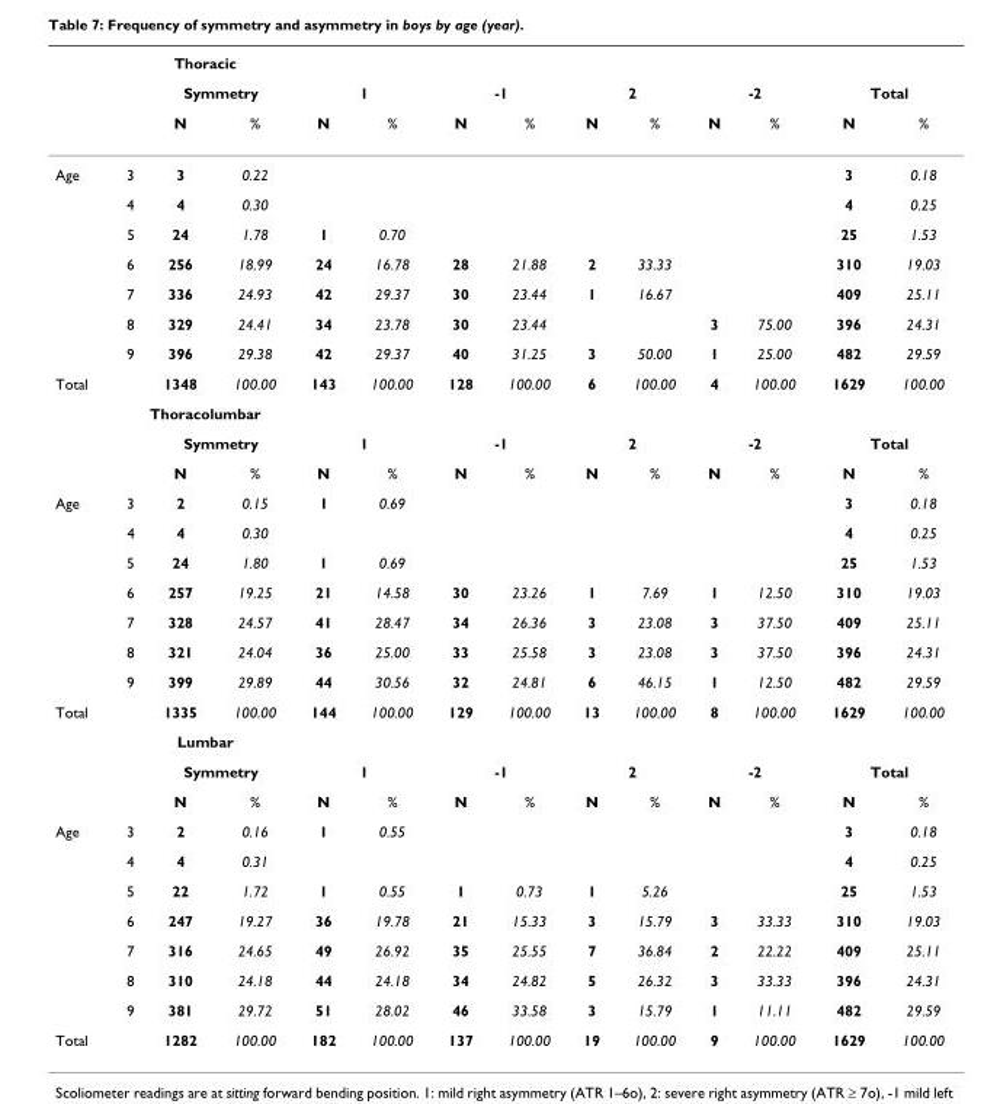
<table><thead><tr><td rowspan="3"></td><td colspan="3">Thoracic</td><td></td><td></td><td></td><td></td><td></td><td></td><td></td><td></td><td></td><td></td></tr><tr><td rowspan="2"></td><td colspan="2">Symmetry</td><td colspan="2">1</td><td colspan="2">-1</td><td colspan="2">2</td><td colspan="2">-2</td><td colspan="2">Total</td></tr><tr><td>N</td><td>%</td><td>N</td><td>%</td><td>N</td><td>%</td><td>N</td><td>%</td><td>N</td><td>%</td><td>N</td><td>%</td></tr></thead><tbody><tr><td rowspan="7">Age</td><td>3</td><td>3</td><td>0.22</td><td></td><td></td><td></td><td></td><td></td><td></td><td></td><td></td><td>3</td><td>0.18</td></tr><tr><td>4</td><td>4</td><td>0.30</td><td></td><td></td><td></td><td></td><td></td><td></td><td></td><td></td><td>4</td><td>0.25</td></tr><tr><td>5</td><td>24</td><td>1.78</td><td>1</td><td>0.70</td><td></td><td></td><td></td><td></td><td></td><td></td><td>25</td><td>1.53</td></tr><tr><td>6</td><td>256</td><td>18.99</td><td>24</td><td>16.78</td><td>28</td><td>21.88</td><td>2</td><td>33.33</td><td></td><td></td><td>310</td><td>19.03</td></tr><tr><td>7</td><td>336</td><td>24.93</td><td>42</td><td>29.37</td><td>30</td><td>23.44</td><td>1</td><td>16.67</td><td></td><td></td><td>409</td><td>25.11</td></tr><tr><td>8</td><td>329</td><td>24.41</td><td>34</td><td>23.78</td><td>30</td><td>23.44</td><td></td><td></td><td>3</td><td>75.00</td><td>396</td><td>24.31</td></tr><tr><td>9</td><td>396</td><td>29.38</td><td>42</td><td>29.37</td><td>40</td><td>31.25</td><td>3</td><td>50.00</td><td>1</td><td>25.00</td><td>482</td><td>29.59</td></tr><tr><td rowspan="4">Total</td><td></td><td>1348</td><td>100.00</td><td>143</td><td>100.00</td><td>128</td><td>100.00</td><td>6</td><td>100.00</td><td>4</td><td>100.00</td><td>1629</td><td>100.00</td></tr><tr><td colspan="3">Thoracolumbar</td><td></td><td></td><td></td><td></td><td></td><td></td><td></td><td></td><td></td><td></td></tr><tr><td></td><td colspan="2">Symmetry</td><td colspan="2">1</td><td colspan="2">-1</td><td colspan="2">2</td><td colspan="2">-2</td><td colspan="2">Total</td></tr><tr><td></td><td>N</td><td>%</td><td>N</td><td>%</td><td>N</td><td>%</td><td>N</td><td>%</td><td>N</td><td>%</td><td>N</td><td>%</td></tr><tr><td rowspan="7">Age</td><td>3</td><td>2</td><td>0.15</td><td>1</td><td>0.69</td><td></td><td></td><td></td><td></td><td></td><td></td><td>3</td><td>0.18</td></tr><tr><td>4</td><td>4</td><td>0.30</td><td></td><td></td><td></td><td></td><td></td><td></td><td></td><td></td><td>4</td><td>0.25</td></tr><tr><td>5</td><td>24</td><td>1.80</td><td>1</td><td>0.69</td><td></td><td></td><td></td><td></td><td></td><td></td><td>25</td><td>1.53</td></tr><tr><td>6</td><td>257</td><td>19.25</td><td>21</td><td>14.58</td><td>30</td><td>23.26</td><td>1</td><td>7.69</td><td>1</td><td>12.50</td><td>310</td><td>19.03</td></tr><tr><td>7</td><td>328</td><td>24.57</td><td>41</td><td>28.47</td><td>34</td><td>26.36</td><td>3</td><td>23.08</td><td>3</td><td>37.50</td><td>409</td><td>25.11</td></tr><tr><td>8</td><td>321</td><td>24.04</td><td>36</td><td>25.00</td><td>33</td><td>25.58</td><td>3</td><td>23.08</td><td>3</td><td>37.50</td><td>396</td><td>24.31</td></tr><tr><td>9</td><td>399</td><td>29.89</td><td>44</td><td>30.56</td><td>32</td><td>24.81</td><td>6</td><td>46.15</td><td>1</td><td>12.50</td><td>482</td><td>29.59</td></tr><tr><td rowspan="4">Total</td><td></td><td>1335</td><td>100.00</td><td>144</td><td>100.00</td><td>129</td><td>100.00</td><td>13</td><td>100.00</td><td>8</td><td>100.00</td><td>1629</td><td>100.00</td></tr><tr><td colspan="3">Lumbar</td><td></td><td></td><td></td><td></td><td></td><td></td><td></td><td></td><td></td><td></td></tr><tr><td></td><td colspan="2">Symmetry</td><td colspan="2">1</td><td colspan="2">-1</td><td colspan="2">2</td><td colspan="2">-2</td><td colspan="2">Total</td></tr><tr><td></td><td>N</td><td>%</td><td>N</td><td>%</td><td>N</td><td>%</td><td>N</td><td>%</td><td>N</td><td>%</td><td>N</td><td>%</td></tr><tr><td rowspan="7">Age</td><td>3</td><td>2</td><td>0.16</td><td>1</td><td>0.55</td><td></td><td></td><td></td><td></td><td></td><td></td><td>3</td><td>0.18</td></tr><tr><td>4</td><td>4</td><td>0.31</td><td></td><td></td><td></td><td></td><td></td><td></td><td></td><td></td><td>4</td><td>0.25</td></tr><tr><td>5</td><td>22</td><td>1.72</td><td>1</td><td>0.55</td><td>1</td><td>0.73</td><td>1</td><td>5.26</td><td></td><td></td><td>25</td><td>1.53</td></tr><tr><td>6</td><td>247</td><td>19.27</td><td>36</td><td>19.78</td><td>21</td><td>15.33</td><td>3</td><td>15.79</td><td>3</td><td>33.33</td><td>310</td><td>19.03</td></tr><tr><td>7</td><td>316</td><td>24.65</td><td>49</td><td>26.92</td><td>35</td><td>25.55</td><td>7</td><td>36.84</td><td>2</td><td>22.22</td><td>409</td><td>25.11</td></tr><tr><td>8</td><td>310</td><td>24.18</td><td>44</td><td>24.18</td><td>34</td><td>24.82</td><td>5</td><td>26.32</td><td>3</td><td>33.33</td><td>396</td><td>24.31</td></tr><tr><td>9</td><td>381</td><td>29.72</td><td>51</td><td>28.02</td><td>46</td><td>33.58</td><td>3</td><td>15.79</td><td>1</td><td>11.11</td><td>482</td><td>29.59</td></tr><tr><td>Total</td><td></td><td>1282</td><td>100.00</td><td>182</td><td>100.00</td><td>137</td><td>100.00</td><td>19</td><td>100.00</td><td>9</td><td>100.00</td><td>1629</td><td>100.00</td></tr></tbody></table>